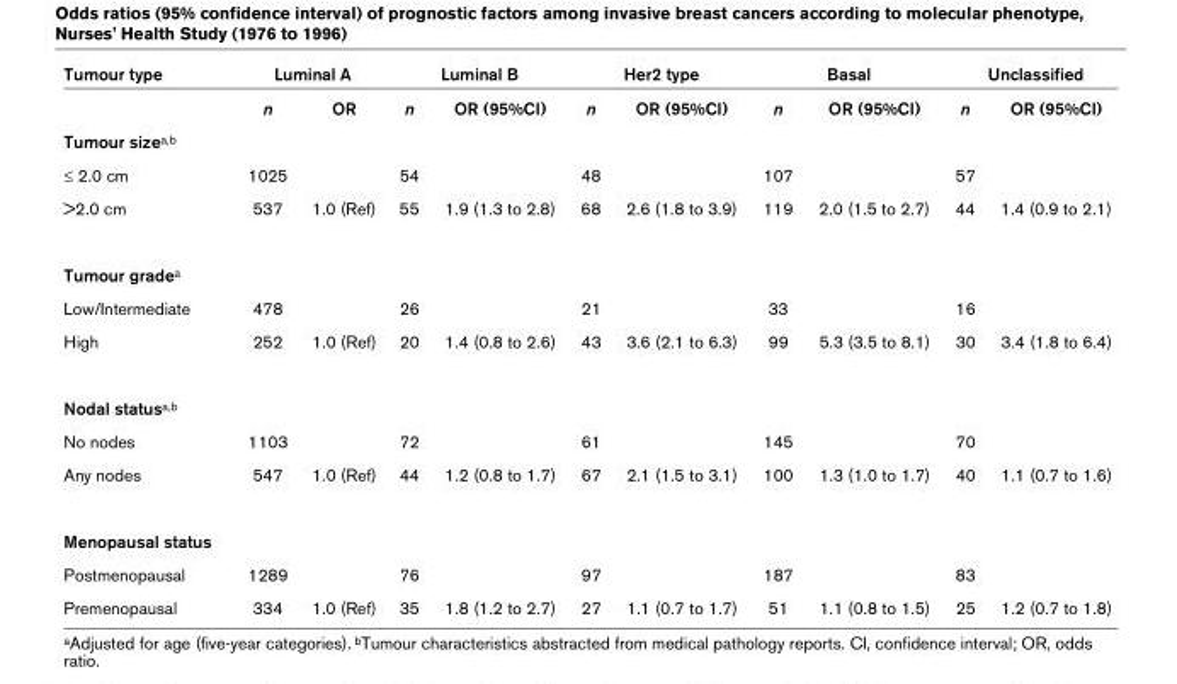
<table><thead><tr><td rowspan="2">Tumour type</td><td colspan="2">Luminal A</td><td colspan="2">Luminal B</td><td colspan="2">Her2 type</td><td colspan="2">Basal</td><td colspan="2">Unclassified</td></tr><tr><td>n</td><td>OR</td><td>n</td><td>OR (95%CI)</td><td>n</td><td>OR (95%CI)</td><td>n</td><td>OR (95%CI)</td><td>n</td><td>OR (95%CI)</td></tr></thead><tbody><tr><td colspan="11">Tumour size<sup>a,b</sup></td></tr><tr><td>≤ 2.0 cm</td><td>1025</td><td></td><td>54</td><td></td><td>48</td><td></td><td>107</td><td></td><td>57</td><td></td></tr><tr><td>&gt;2.0 cm</td><td>537</td><td>1.0 (Ref)</td><td>55</td><td>1.9 (1.3 to 2.8)</td><td>68</td><td>2.6 (1.8 to 3.9)</td><td>119</td><td>2.0 (1.5 to 2.7)</td><td>44</td><td>1.4 (0.9 to 2.1)</td></tr><tr><td colspan="11">Tumour grade<sup>a</sup></td></tr><tr><td>Low/Intermediate</td><td>478</td><td></td><td>26</td><td></td><td>21</td><td></td><td>33</td><td></td><td>16</td><td></td></tr><tr><td>High</td><td>252</td><td>1.0 (Ref)</td><td>20</td><td>1.4 (0.8 to 2.6)</td><td>43</td><td>3.6 (2.1 to 6.3)</td><td>99</td><td>5.3 (3.5 to 8.1)</td><td>30</td><td>3.4 (1.8 to 6.4)</td></tr><tr><td colspan="11">Nodal status<sup>a,b</sup></td></tr><tr><td>No nodes</td><td>1103</td><td></td><td>72</td><td></td><td>61</td><td></td><td>145</td><td></td><td>70</td><td></td></tr><tr><td>Any nodes</td><td>547</td><td>1.0 (Ref)</td><td>44</td><td>1.2 (0.8 to 1.7)</td><td>67</td><td>2.1 (1.5 to 3.1)</td><td>100</td><td>1.3 (1.0 to 1.7)</td><td>40</td><td>1.1 (0.7 to 1.6)</td></tr><tr><td colspan="11">Menopausal status</td></tr><tr><td>Postmenopausal</td><td>1289</td><td></td><td>76</td><td></td><td>97</td><td></td><td>187</td><td></td><td>83</td><td></td></tr><tr><td>Premenopausal</td><td>334</td><td>1.0 (Ref)</td><td>35</td><td>1.8 (1.2 to 2.7)</td><td>27</td><td>1.1 (0.7 to 1.7)</td><td>51</td><td>1.1 (0.8 to 1.5)</td><td>25</td><td>1.2 (0.7 to 1.8)</td></tr></tbody></table>